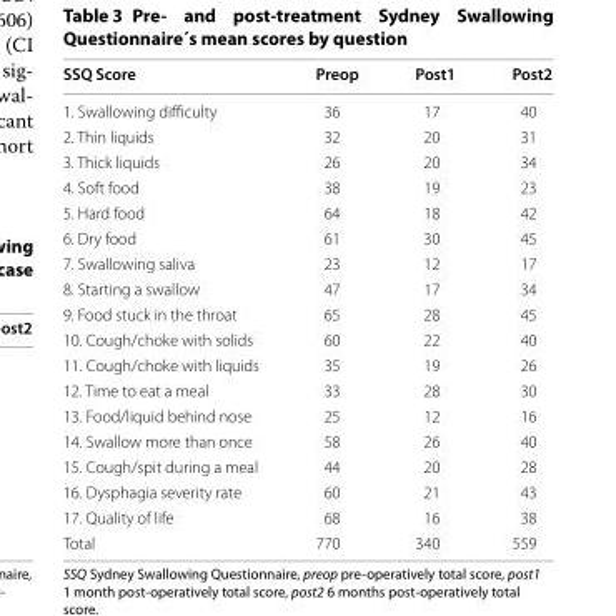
<table><thead><tr><td>SSQ Score</td><td>Preop</td><td>Post1</td><td>Post2</td></tr></thead><tbody><tr><td>1. Swallowing difficulty</td><td>36</td><td>17</td><td>40</td></tr><tr><td>2. Thin liquids</td><td>32</td><td>20</td><td>31</td></tr><tr><td>3. Thick liquids</td><td>26</td><td>20</td><td>34</td></tr><tr><td>4. Soft food</td><td>38</td><td>19</td><td>23</td></tr><tr><td>5. Hard food</td><td>64</td><td>18</td><td>42</td></tr><tr><td>6. Dry food</td><td>61</td><td>30</td><td>45</td></tr><tr><td>7. Swallowing saliva</td><td>23</td><td>12</td><td>17</td></tr><tr><td>8. Starting a swallow</td><td>47</td><td>17</td><td>34</td></tr><tr><td>9. Food stuck in the throat</td><td>65</td><td>28</td><td>45</td></tr><tr><td>10. Cough/choke with solids</td><td>60</td><td>22</td><td>40</td></tr><tr><td>11. Cough/choke with liquids</td><td>35</td><td>19</td><td>26</td></tr><tr><td>12. Time to eat a meal</td><td>33</td><td>28</td><td>30</td></tr><tr><td>13. Food/liquid behind nose</td><td>25</td><td>12</td><td>16</td></tr><tr><td>14. Swallow more than once</td><td>58</td><td>26</td><td>40</td></tr><tr><td>15. Cough/spit during a meal</td><td>44</td><td>20</td><td>28</td></tr><tr><td>16. Dysphagia severity rate</td><td>60</td><td>21</td><td>43</td></tr><tr><td>17. Quality of life</td><td>68</td><td>16</td><td>38</td></tr><tr><td>Total</td><td>770</td><td>340</td><td>559</td></tr></tbody></table>